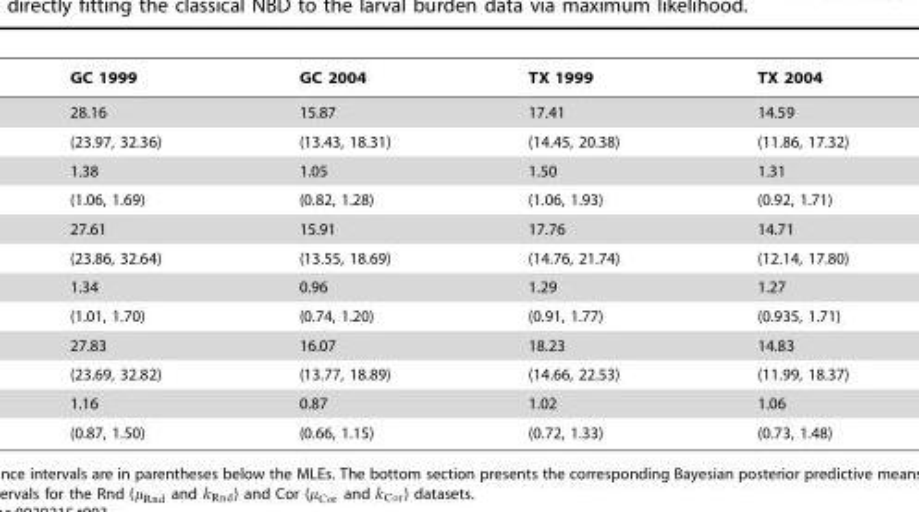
<table><thead><tr><td>GC 1999</td><td>GC 2004</td><td>TX 1999</td><td>TX 2004</td></tr></thead><tbody><tr><td>28.16</td><td>15.87</td><td>17.41</td><td>14.59</td></tr><tr><td>(23.97, 32.36)</td><td>(13.43, 18.31)</td><td>(14.45, 20.38)</td><td>(11.86, 17.32)</td></tr><tr><td>1.38</td><td>1.05</td><td>1.50</td><td>1.31</td></tr><tr><td>(1.06, 1.69)</td><td>(0.82, 1.28)</td><td>(1.06, 1.93)</td><td>(0.92, 1.71)</td></tr><tr><td>27.61</td><td>15.91</td><td>17.76</td><td>14.71</td></tr><tr><td>(23.86, 32.64)</td><td>(13.55, 18.69)</td><td>(14.76, 21.74)</td><td>(12.14, 17.80)</td></tr><tr><td>1.34</td><td>0.96</td><td>1.29</td><td>1.27</td></tr><tr><td>(1.01, 1.70)</td><td>(0.74, 1.20)</td><td>(0.91, 1.77)</td><td>(0.935, 1.71)</td></tr><tr><td>27.83</td><td>16.07</td><td>18.23</td><td>14.83</td></tr><tr><td>(23.69, 32.82)</td><td>(13.77, 18.89)</td><td>(14.66, 22.53)</td><td>(11.99, 18.37)</td></tr><tr><td>1.16</td><td>0.87</td><td>1.02</td><td>1.06</td></tr><tr><td>(0.87, 1.50)</td><td>(0.66, 1.15)</td><td>(0.72, 1.33)</td><td>(0.73, 1.48)</td></tr></tbody></table>